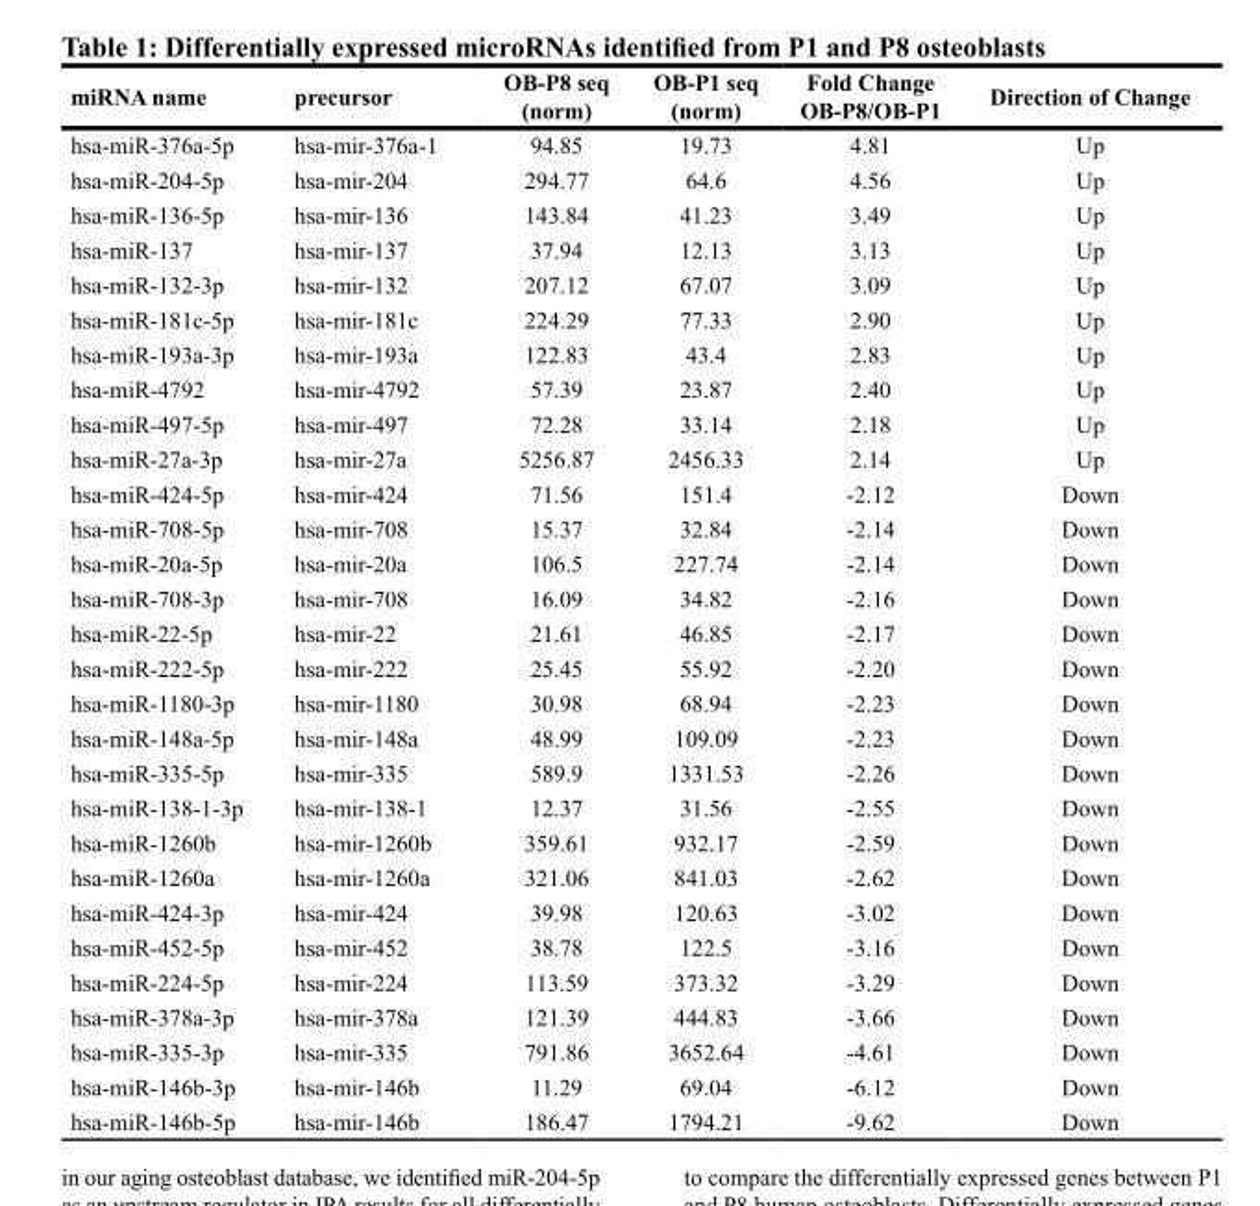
<table><thead><tr><td>miRNA name</td><td>precursor</td><td>OB-P8 seq (norm)</td><td>OB-P1 seq (norm)</td><td>Fold Change OB-P8/OB-P1</td><td>Direction of Change</td></tr></thead><tbody><tr><td>hsa-miR-376a-5p</td><td>hsa-mir-376a-1</td><td>94.85</td><td>19.73</td><td>4.81</td><td>Up</td></tr><tr><td>hsa-miR-204-5p</td><td>hsa-mir-204</td><td>294.77</td><td>64.6</td><td>4.56</td><td>Up</td></tr><tr><td>hsa-miR-136-5p</td><td>hsa-mir-136</td><td>143.84</td><td>41.23</td><td>3.49</td><td>Up</td></tr><tr><td>hsa-miR-137</td><td>hsa-mir-137</td><td>37.94</td><td>12.13</td><td>3.13</td><td>Up</td></tr><tr><td>hsa-miR-132-3p</td><td>hsa-mir-132</td><td>207.12</td><td>67.07</td><td>3.09</td><td>Up</td></tr><tr><td>hsa-miR-181c-5p</td><td>hsa-mir-181c</td><td>224.29</td><td>77.33</td><td>2.90</td><td>Up</td></tr><tr><td>hsa-miR-193a-3p</td><td>hsa-mir-193a</td><td>122.83</td><td>43.4</td><td>2.83</td><td>Up</td></tr><tr><td>hsa-miR-4792</td><td>hsa-mir-4792</td><td>57.39</td><td>23.87</td><td>2.40</td><td>Up</td></tr><tr><td>hsa-miR-497-5p</td><td>hsa-mir-497</td><td>72.28</td><td>33.14</td><td>2.18</td><td>Up</td></tr><tr><td>hsa-miR-27a-3p</td><td>hsa-mir-27a</td><td>5256.87</td><td>2456.33</td><td>2.14</td><td>Up</td></tr><tr><td>hsa-miR-424-5p</td><td>hsa-mir-424</td><td>71.56</td><td>151.4</td><td>-2.12</td><td>Down</td></tr><tr><td>hsa-miR-708-5p</td><td>hsa-mir-708</td><td>15.37</td><td>32.84</td><td>-2.14</td><td>Down</td></tr><tr><td>hsa-miR-20a-5p</td><td>hsa-mir-20a</td><td>106.5</td><td>227.74</td><td>-2.14</td><td>Down</td></tr><tr><td>hsa-miR-708-3p</td><td>hsa-mir-708</td><td>16.09</td><td>34.82</td><td>-2.16</td><td>Down</td></tr><tr><td>hsa-miR-22-5p</td><td>hsa-mir-22</td><td>21.61</td><td>46.85</td><td>-2.17</td><td>Down</td></tr><tr><td>hsa-miR-222-5p</td><td>hsa-mir-222</td><td>25.45</td><td>55.92</td><td>-2.20</td><td>Down</td></tr><tr><td>hsa-miR-1180-3p</td><td>hsa-mir-1180</td><td>30.98</td><td>68.94</td><td>-2.23</td><td>Down</td></tr><tr><td>hsa-miR-148a-5p</td><td>hsa-mir-148a</td><td>48.99</td><td>109.09</td><td>-2.23</td><td>Down</td></tr><tr><td>hsa-miR-335-5p</td><td>hsa-mir-335</td><td>589.9</td><td>1331.53</td><td>-2.26</td><td>Down</td></tr><tr><td>hsa-miR-138-1-3p</td><td>hsa-mir-138-1</td><td>12.37</td><td>31.56</td><td>-2.55</td><td>Down</td></tr><tr><td>hsa-miR-1260b</td><td>hsa-mir-1260b</td><td>359.61</td><td>932.17</td><td>-2.59</td><td>Down</td></tr><tr><td>hsa-miR-1260a</td><td>hsa-mir-1260a</td><td>321.06</td><td>841.03</td><td>-2.62</td><td>Down</td></tr><tr><td>hsa-miR-424-3p</td><td>hsa-mir-424</td><td>39.98</td><td>120.63</td><td>-3.02</td><td>Down</td></tr><tr><td>hsa-miR-452-5p</td><td>hsa-mir-452</td><td>38.78</td><td>122.5</td><td>-3.16</td><td>Down</td></tr><tr><td>hsa-miR-224-5p</td><td>hsa-mir-224</td><td>113.59</td><td>373.32</td><td>-3.29</td><td>Down</td></tr><tr><td>hsa-miR-378a-3p</td><td>hsa-mir-378a</td><td>121.39</td><td>444.83</td><td>-3.66</td><td>Down</td></tr><tr><td>hsa-miR-335-3p</td><td>hsa-mir-335</td><td>791.86</td><td>3652.64</td><td>-4.61</td><td>Down</td></tr><tr><td>hsa-miR-146b-3p</td><td>hsa-mir-146b</td><td>11.29</td><td>69.04</td><td>-6.12</td><td>Down</td></tr><tr><td>hsa-miR-146b-5p</td><td>hsa-mir-146b</td><td>186.47</td><td>1794.21</td><td>-9.62</td><td>Down</td></tr></tbody></table>